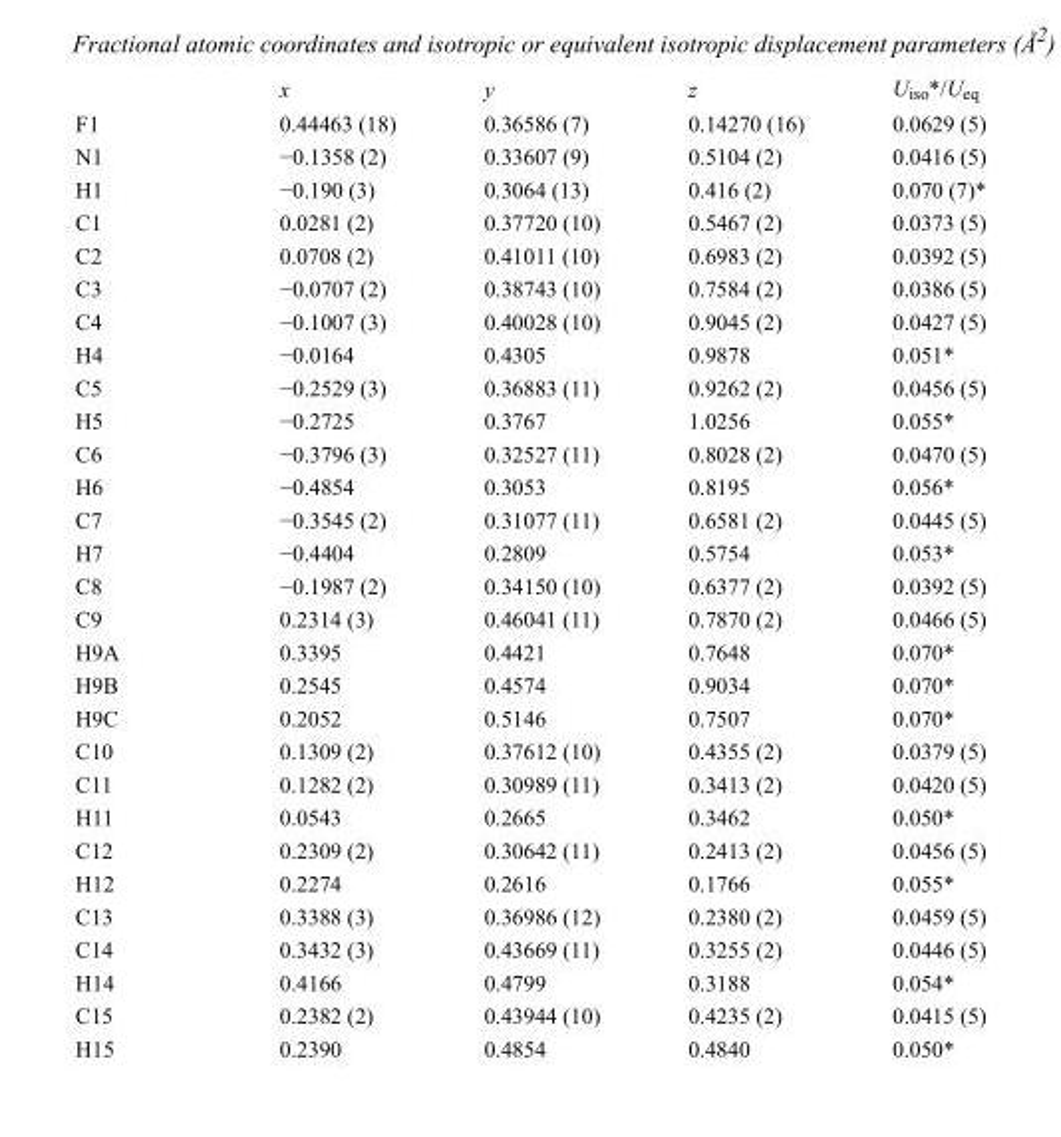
<table><thead><tr><td></td><td>x</td><td>y</td><td>z</td><td>U<sub>iso</sub>*/U<sub>eq</sub></td></tr></thead><tbody><tr><td>F1</td><td>0.44463 (18)</td><td>0.36586 (7)</td><td>0.14270 (16)</td><td>0.0629 (5)</td></tr><tr><td>N1</td><td>−0.1358 (2)</td><td>0.33607 (9)</td><td>0.5104 (2)</td><td>0.0416 (5)</td></tr><tr><td>H1</td><td>−0.190 (3)</td><td>0.3064 (13)</td><td>0.416 (2)</td><td>0.070 (7)*</td></tr><tr><td>C1</td><td>0.0281 (2)</td><td>0.37720 (10)</td><td>0.5467 (2)</td><td>0.0373 (5)</td></tr><tr><td>C2</td><td>0.0708 (2)</td><td>0.41011 (10)</td><td>0.6983 (2)</td><td>0.0392 (5)</td></tr><tr><td>C3</td><td>−0.0707 (2)</td><td>0.38743 (10)</td><td>0.7584 (2)</td><td>0.0386 (5)</td></tr><tr><td>C4</td><td>−0.1007 (3)</td><td>0.40028 (10)</td><td>0.9045 (2)</td><td>0.0427 (5)</td></tr><tr><td>H4</td><td>−0.0164</td><td>0.4305</td><td>0.9878</td><td>0.051*</td></tr><tr><td>C5</td><td>−0.2529 (3)</td><td>0.36883 (11)</td><td>0.9262 (2)</td><td>0.0456 (5)</td></tr><tr><td>H5</td><td>−0.2725</td><td>0.3767</td><td>1.0256</td><td>0.055*</td></tr><tr><td>C6</td><td>−0.3796 (3)</td><td>0.32527 (11)</td><td>0.8028 (2)</td><td>0.0470 (5)</td></tr><tr><td>H6</td><td>−0.4854</td><td>0.3053</td><td>0.8195</td><td>0.056*</td></tr><tr><td>C7</td><td>−0.3545 (2)</td><td>0.31077 (11)</td><td>0.6581 (2)</td><td>0.0445 (5)</td></tr><tr><td>H7</td><td>−0.4404</td><td>0.2809</td><td>0.5754</td><td>0.053*</td></tr><tr><td>C8</td><td>−0.1987 (2)</td><td>0.34150 (10)</td><td>0.6377 (2)</td><td>0.0392 (5)</td></tr><tr><td>C9</td><td>0.2314 (3)</td><td>0.46041 (11)</td><td>0.7870 (2)</td><td>0.0466 (5)</td></tr><tr><td>H9A</td><td>0.3395</td><td>0.4421</td><td>0.7648</td><td>0.070*</td></tr><tr><td>H9B</td><td>0.2545</td><td>0.4574</td><td>0.9034</td><td>0.070*</td></tr><tr><td>H9C</td><td>0.2052</td><td>0.5146</td><td>0.7507</td><td>0.070*</td></tr><tr><td>C10</td><td>0.1309 (2)</td><td>0.37612 (10)</td><td>0.4355 (2)</td><td>0.0379 (5)</td></tr><tr><td>C11</td><td>0.1282 (2)</td><td>0.30989 (11)</td><td>0.3413 (2)</td><td>0.0420 (5)</td></tr><tr><td>H11</td><td>0.0543</td><td>0.2665</td><td>0.3462</td><td>0.050*</td></tr><tr><td>C12</td><td>0.2309 (2)</td><td>0.30642 (11)</td><td>0.2413 (2)</td><td>0.0456 (5)</td></tr><tr><td>H12</td><td>0.2274</td><td>0.2616</td><td>0.1766</td><td>0.055*</td></tr><tr><td>C13</td><td>0.3388 (3)</td><td>0.36986 (12)</td><td>0.2380 (2)</td><td>0.0459 (5)</td></tr><tr><td>C14</td><td>0.3432 (3)</td><td>0.43669 (11)</td><td>0.3255 (2)</td><td>0.0446 (5)</td></tr><tr><td>H14</td><td>0.4166</td><td>0.4799</td><td>0.3188</td><td>0.054*</td></tr><tr><td>C15</td><td>0.2382 (2)</td><td>0.43944 (10)</td><td>0.4235 (2)</td><td>0.0415 (5)</td></tr><tr><td>H15</td><td>0.2390</td><td>0.4854</td><td>0.4840</td><td>0.050*</td></tr></tbody></table>